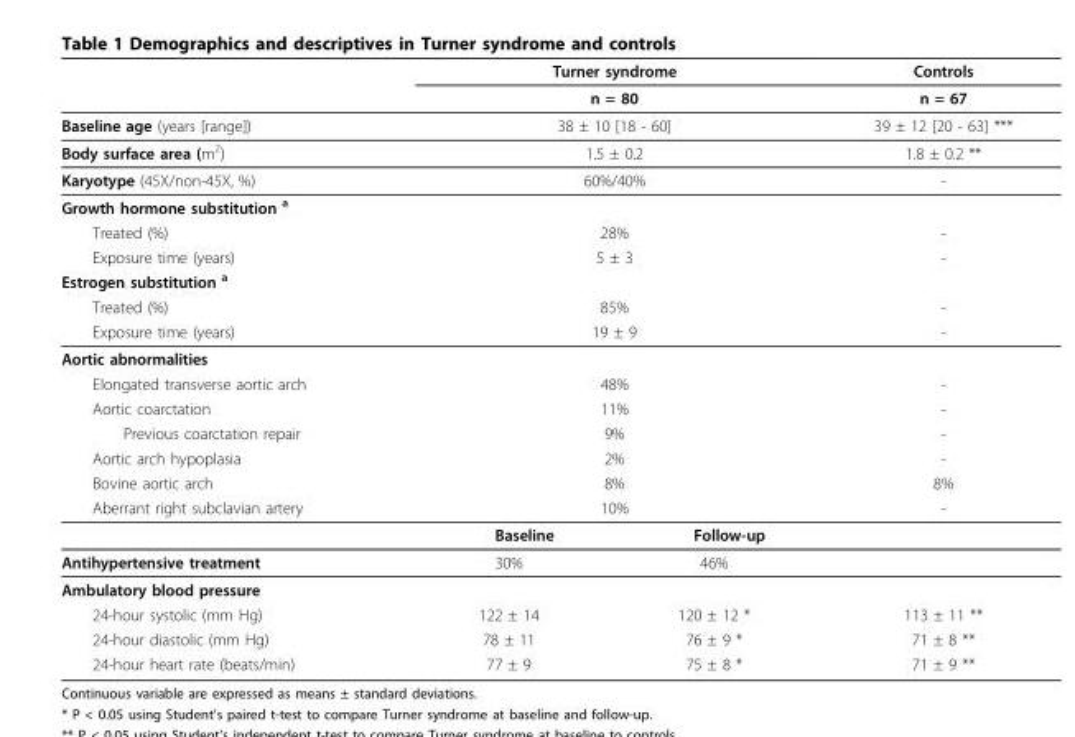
<table><thead><tr><td rowspan="2"></td><td rowspan="2" colspan="2">Turner syndrome n = 80</td><td rowspan="2">Controls n = 67</td></tr><tr></tr></thead><tbody><tr><td>Baseline age (years [range])</td><td colspan="2">38 ± 10 [18 - 60]</td><td>39 ± 12 [20 - 63] ***</td></tr><tr><td>Body surface area (m<sup>2</sup>)</td><td colspan="2">1.5 ± 0.2</td><td>1.8 ± 0.2 **</td></tr><tr><td>Karyotype (45X/non-45X, %)</td><td colspan="2">60%/40%</td><td>-</td></tr><tr><td colspan="4">Growth hormone substitution <sup>a</sup></td></tr><tr><td>Treated (%)</td><td colspan="2">28%</td><td>-</td></tr><tr><td>Exposure time (years)</td><td colspan="2">5 ± 3</td><td>-</td></tr><tr><td colspan="4">Estrogen substitution <sup>a</sup></td></tr><tr><td>Treated (%)</td><td colspan="2">85%</td><td>-</td></tr><tr><td>Exposure time (years)</td><td colspan="2">19 ± 9</td><td>-</td></tr><tr><td colspan="4">Aortic abnormalities</td></tr><tr><td>Elongated transverse aortic arch</td><td colspan="2">48%</td><td>-</td></tr><tr><td>Aortic coarctation</td><td colspan="2">11%</td><td>-</td></tr><tr><td>Previous coarctation repair</td><td colspan="2">9%</td><td>-</td></tr><tr><td>Aortic arch hypoplasia</td><td colspan="2">2%</td><td>-</td></tr><tr><td>Bovine aortic arch</td><td colspan="2">8%</td><td>8%</td></tr><tr><td rowspan="2">Aberrant right subclavian artery</td><td colspan="2">10%</td><td>-</td></tr><tr><td>Baseline</td><td>Follow-up</td><td></td></tr><tr><td>Antihypertensive treatment</td><td>30%</td><td>46%</td><td></td></tr><tr><td colspan="4">Ambulatory blood pressure</td></tr><tr><td>24-hour systolic (mm Hg)</td><td>122 ± 14</td><td>120 ± 12 *</td><td>113 ± 11 **</td></tr><tr><td>24-hour diastolic (mm Hg)</td><td>78 ± 11</td><td>76 ± 9 *</td><td>71 ± 8 **</td></tr><tr><td>24-hour heart rate (beats/min)</td><td>77 ± 9</td><td>75 ± 8 *</td><td>71 ± 9 **</td></tr></tbody></table>